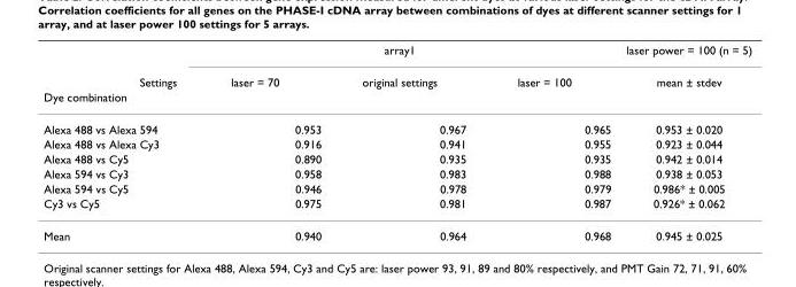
<table><thead><tr><td rowspan="3">Settings Dye combination</td><td colspan="3">array1</td><td rowspan="3">laser power = 100 (n = 5) mean ± stdev</td></tr><tr><td rowspan="2">laser = 70</td><td rowspan="2">original settings</td><td rowspan="2">laser = 100</td></tr><tr></tr></thead><tbody><tr><td>Alexa 488 vs Alexa 594</td><td>0.953</td><td>0.967</td><td>0.965</td><td>0.953 ± 0.020</td></tr><tr><td>Alexa 488 vs Alexa Cy3</td><td>0.916</td><td>0.941</td><td>0.955</td><td>0.923 ± 0.044</td></tr><tr><td>Alexa 488 vs Cy5</td><td>0.890</td><td>0.935</td><td>0.935</td><td>0.942 ± 0.014</td></tr><tr><td>Alexa 594 vs Cy3</td><td>0.958</td><td>0.983</td><td>0.988</td><td>0.938 ± 0.053</td></tr><tr><td>Alexa 594 vs Cy5</td><td>0.946</td><td>0.978</td><td>0.979</td><td>0.986* ± 0.005</td></tr><tr><td>Cy3 vs Cy5</td><td>0.975</td><td>0.981</td><td>0.987</td><td>0.926* ± 0.062</td></tr><tr><td>Mean</td><td>0.940</td><td>0.964</td><td>0.968</td><td>0.945 ± 0.025</td></tr></tbody></table>